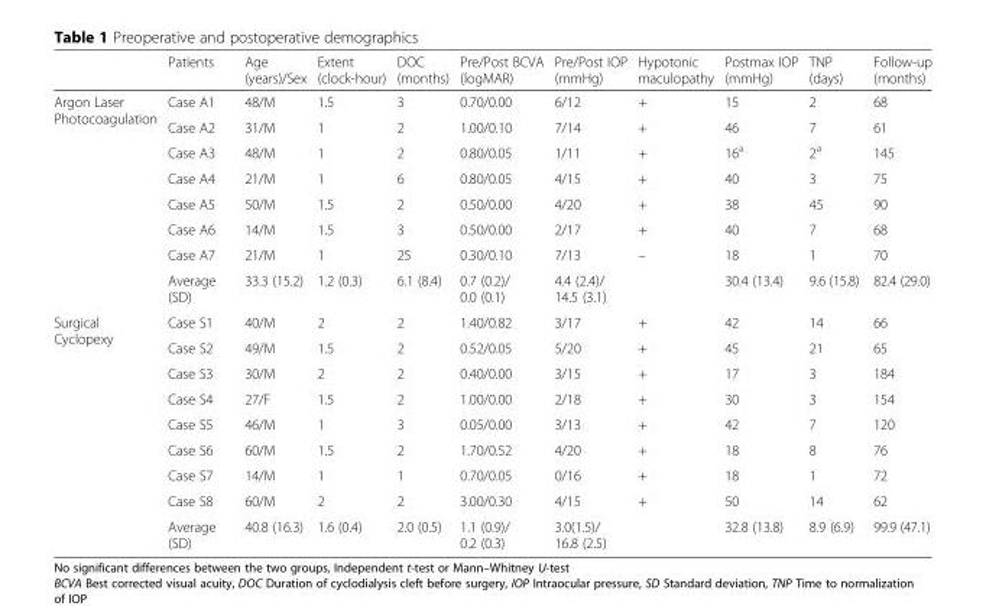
<table><thead><tr><td></td><td>Patients</td><td>Age (years)/Sex</td><td>Extent (clock-hour)</td><td>DOC (months)</td><td>Pre/Post BCVA (logMAR)</td><td>Pre/Post IOP (mmHg)</td><td>Hypotonic maculopathy</td><td>Postmax IOP (mmHg)</td><td>TNP (days)</td><td>Follow-up (months)</td></tr></thead><tbody><tr><td rowspan="8">Argon Laser Photocoagulation</td><td>Case A1</td><td>48/M</td><td>1.5</td><td>3</td><td>0.70/0.00</td><td>6/12</td><td>+</td><td>15</td><td>2</td><td>68</td></tr><tr><td>Case A2</td><td>31/M</td><td>1</td><td>2</td><td>1.00/0.10</td><td>7/14</td><td>+</td><td>46</td><td>7</td><td>61</td></tr><tr><td>Case A3</td><td>48/M</td><td>1</td><td>2</td><td>0.80/0.05</td><td>1/11</td><td>+</td><td>16<sup>a</sup></td><td>2<sup>a</sup></td><td>145</td></tr><tr><td>Case A4</td><td>21/M</td><td>1</td><td>6</td><td>0.80/0.05</td><td>4/15</td><td>+</td><td>40</td><td>3</td><td>75</td></tr><tr><td>Case A5</td><td>50/M</td><td>1.5</td><td>2</td><td>0.50/0.00</td><td>4/20</td><td>+</td><td>38</td><td>45</td><td>90</td></tr><tr><td>Case A6</td><td>14/M</td><td>1.5</td><td>3</td><td>0.50/0.00</td><td>2/17</td><td>+</td><td>40</td><td>7</td><td>68</td></tr><tr><td>Case A7</td><td>21/M</td><td>1</td><td>25</td><td>0.30/0.10</td><td>7/13</td><td>–</td><td>18</td><td>1</td><td>70</td></tr><tr><td>Average (SD)</td><td>33.3 (15.2)</td><td>1.2 (0.3)</td><td>6.1 (8.4)</td><td>0.7 (0.2)/ 0.0 (0.1)</td><td>4.4 (2.4)/ 14.5 (3.1)</td><td></td><td>30.4 (13.4)</td><td>9.6 (15.8)</td><td>82.4 (29.0)</td></tr><tr><td rowspan="9">Surgical Cyclopexy</td><td>Case S1</td><td>40/M</td><td>2</td><td>2</td><td>1.40/0.82</td><td>3/17</td><td>+</td><td>42</td><td>14</td><td>66</td></tr><tr><td>Case S2</td><td>49/M</td><td>1.5</td><td>2</td><td>0.52/0.05</td><td>5/20</td><td>+</td><td>45</td><td>21</td><td>65</td></tr><tr><td>Case S3</td><td>30/M</td><td>2</td><td>2</td><td>0.40/0.00</td><td>3/15</td><td>+</td><td>17</td><td>3</td><td>184</td></tr><tr><td>Case S4</td><td>27/F</td><td>1.5</td><td>2</td><td>1.00/0.00</td><td>2/18</td><td>+</td><td>30</td><td>3</td><td>154</td></tr><tr><td>Case S5</td><td>46/M</td><td>1</td><td>3</td><td>0.05/0.00</td><td>3/13</td><td>+</td><td>42</td><td>7</td><td>120</td></tr><tr><td>Case S6</td><td>60/M</td><td>1.5</td><td>2</td><td>1.70/0.52</td><td>4/20</td><td>+</td><td>18</td><td>8</td><td>76</td></tr><tr><td>Case S7</td><td>14/M</td><td>1</td><td>1</td><td>0.70/0.05</td><td>0/16</td><td>+</td><td>18</td><td>1</td><td>72</td></tr><tr><td>Case S8</td><td>60/M</td><td>2</td><td>2</td><td>3.00/0.30</td><td>4/15</td><td>+</td><td>50</td><td>14</td><td>62</td></tr><tr><td>Average (SD)</td><td>40.8 (16.3)</td><td>1.6 (0.4)</td><td>2.0 (0.5)</td><td>1.1 (0.9)/ 0.2 (0.3)</td><td>3.0(1.5)/ 16.8 (2.5)</td><td></td><td>32.8 (13.8)</td><td>8.9 (6.9)</td><td>99.9 (47.1)</td></tr></tbody></table>